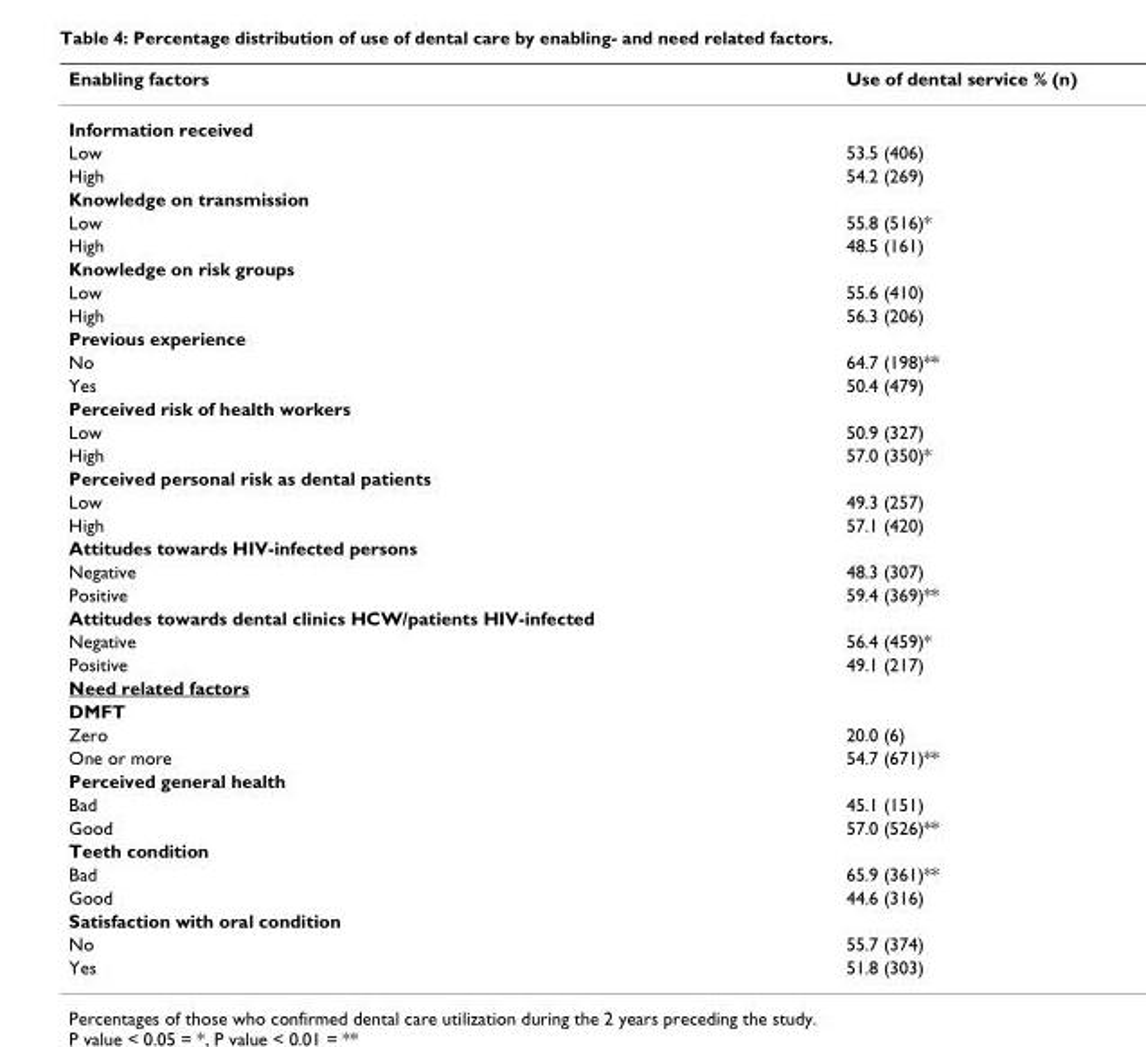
<table><thead><tr><td>Enabling factors</td><td>Use of dental service % (n)</td></tr></thead><tbody><tr><td colspan="2">Information received</td></tr><tr><td>Low</td><td>53.5 (406)</td></tr><tr><td>High</td><td>54.2 (269)</td></tr><tr><td colspan="2">Knowledge on transmission</td></tr><tr><td>Low</td><td>55.8 (516)*</td></tr><tr><td>High</td><td>48.5 (161)</td></tr><tr><td colspan="2">Knowledge on risk groups</td></tr><tr><td>Low</td><td>55.6 (410)</td></tr><tr><td>High</td><td>56.3 (206)</td></tr><tr><td colspan="2">Previous experience</td></tr><tr><td>No</td><td>64.7 (198)**</td></tr><tr><td>Yes</td><td>50.4 (479)</td></tr><tr><td colspan="2">Perceived risk of health workers</td></tr><tr><td>Low</td><td>50.9 (327)</td></tr><tr><td>High</td><td>57.0 (350)*</td></tr><tr><td colspan="2">Perceived personal risk as dental patients</td></tr><tr><td>Low</td><td>49.3 (257)</td></tr><tr><td>High</td><td>57.1 (420)</td></tr><tr><td colspan="2">Attitudes towards HIV-infected persons</td></tr><tr><td>Negative</td><td>48.3 (307)</td></tr><tr><td>Positive</td><td>59.4 (369)**</td></tr><tr><td colspan="2">Attitudes towards dental clinics HCW/patients HIV-infected</td></tr><tr><td>Negative</td><td>56.4 (459)*</td></tr><tr><td>Positive</td><td>49.1 (217)</td></tr><tr><td colspan="2">Need related factors</td></tr><tr><td colspan="2">DMFT</td></tr><tr><td>Zero</td><td>20.0 (6)</td></tr><tr><td>One or more</td><td>54.7 (671)**</td></tr><tr><td colspan="2">Perceived general health</td></tr><tr><td>Bad</td><td>45.1 (151)</td></tr><tr><td>Good</td><td>57.0 (526)**</td></tr><tr><td colspan="2">Teeth condition</td></tr><tr><td>Bad</td><td>65.9 (361)**</td></tr><tr><td>Good</td><td>44.6 (316)</td></tr><tr><td colspan="2">Satisfaction with oral condition</td></tr><tr><td>No</td><td>55.7 (374)</td></tr><tr><td>Yes</td><td>51.8 (303)</td></tr></tbody></table>